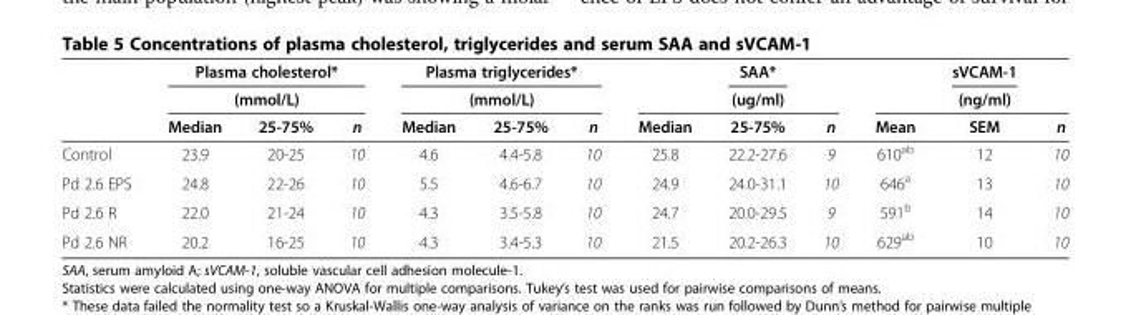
<table><thead><tr><td rowspan="3"></td><td rowspan="2" colspan="3">Plasma cholesterol* (mmol/L)</td><td rowspan="2" colspan="3">Plasma triglycerides* (mmol/L)</td><td rowspan="3">Median</td><td rowspan="3">SAA* (ug/ml) 25-75%</td><td rowspan="3">n</td><td rowspan="3">Mean</td><td rowspan="3">sVCAM-1 (ng/ml) SEM</td><td rowspan="3">n</td></tr><tr></tr><tr><td>Median</td><td>25-75%</td><td>n</td><td>Median</td><td>25-75%</td><td>n</td></tr></thead><tbody><tr><td>Control</td><td>23.9</td><td>20-25</td><td>10</td><td>4.6</td><td>4.4-5.8</td><td>10</td><td>25.8</td><td>22.2-27.6</td><td>9</td><td>610<sup>ab</sup></td><td>12</td><td>10</td></tr><tr><td>Pd 2.6 EPS</td><td>24.8</td><td>22-26</td><td>10</td><td>5.5</td><td>4.6-6.7</td><td>10</td><td>24.9</td><td>24.0-31.1</td><td>10</td><td>646<sup>a</sup></td><td>13</td><td>10</td></tr><tr><td>Pd 2.6 R</td><td>22.0</td><td>21-24</td><td>10</td><td>4.3</td><td>3.5-5.8</td><td>10</td><td>24.7</td><td>20.0-29.5</td><td>9</td><td>591<sup>b</sup></td><td>14</td><td>10</td></tr><tr><td>Pd 2.6 NR</td><td>20.2</td><td>16-25</td><td>10</td><td>4.3</td><td>3.4-5.3</td><td>10</td><td>21.5</td><td>20.2-26.3</td><td>10</td><td>629<sup>ab</sup></td><td>10</td><td>10</td></tr></tbody></table>